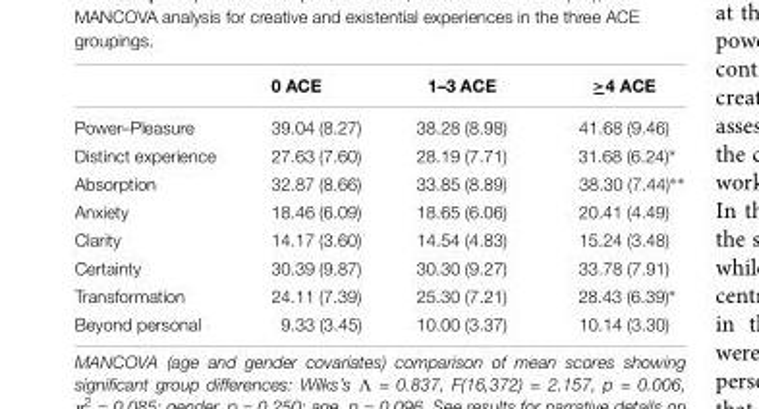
<table><thead><tr><td></td><td>0 ACE</td><td>1–3 ACE</td><td>≥4 ACE</td></tr></thead><tbody><tr><td>Power–Pleasure</td><td>39.04 (8.27)</td><td>38.28 (8.98)</td><td>41.68 (9.46)</td></tr><tr><td>Distinct experience</td><td>27.63 (7.60)</td><td>28.19 (7.71)</td><td>31.68 (6.24)∗</td></tr><tr><td>Absorption</td><td>32.87 (8.66)</td><td>33.85 (8.89)</td><td>38.30 (7.44)∗∗</td></tr><tr><td>Anxiety</td><td>18.46 (6.09)</td><td>18.65 (6.06)</td><td>20.41 (4.49)</td></tr><tr><td>Clarity</td><td>14.17 (3.60)</td><td>14.54 (4.83)</td><td>15.24 (3.48)</td></tr><tr><td>Certainty</td><td>30.39 (9.87)</td><td>30.30 (9.27)</td><td>33.78 (7.91)</td></tr><tr><td>Transformation</td><td>24.11 (7.39)</td><td>25.30 (7.21)</td><td>28.43 (6.39)∗</td></tr><tr><td>Beyond personal</td><td>9.33 (3.45)</td><td>10.00 (3.37)</td><td>10.14 (3.30)</td></tr></tbody></table>